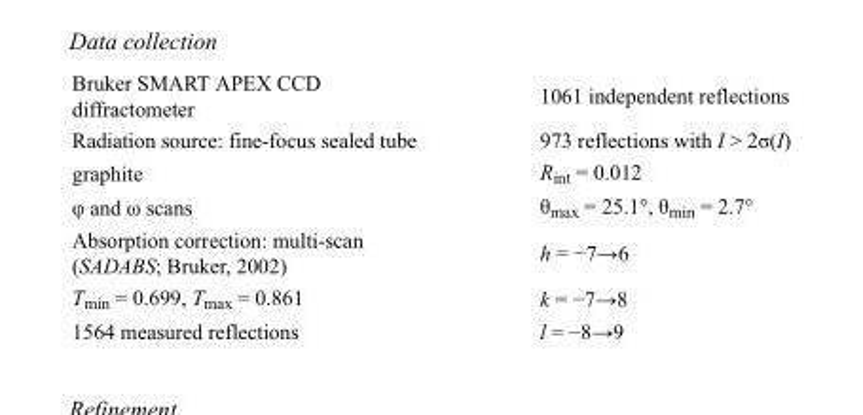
<table><tbody><tr><td>Bruker SMART APEX CCD diffractometer</td><td>1061 independent reflections</td></tr><tr><td>Radiation source: fine-focus sealed tube</td><td>973 reflections with I &gt; 2σ(I)</td></tr><tr><td>graphite</td><td>R<sub>int</sub> = 0.012</td></tr><tr><td>φ and ω scans</td><td>θ<sub>max</sub> = 25.1°, θ<sub>min</sub> = 2.7°</td></tr><tr><td>Absorption correction: multi-scan (SADABS; Bruker, 2002)</td><td>h = −7→6</td></tr><tr><td>T<sub>min</sub> = 0.699, T<sub>max</sub> = 0.861</td><td>k = −7→8</td></tr><tr><td>1564 measured reflections</td><td>l = −8→9</td></tr></tbody></table>